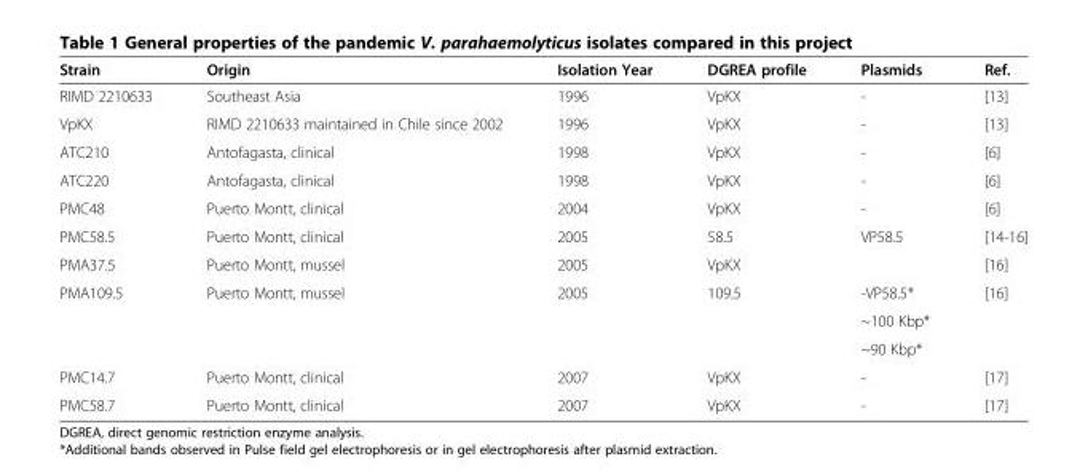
<table><thead><tr><td>Strain</td><td>Origin</td><td>Isolation Year</td><td>DGREA profile</td><td>Plasmids</td><td>Ref.</td></tr></thead><tbody><tr><td>RIMD 2210633</td><td>Southeast Asia</td><td>1996</td><td>VpKX</td><td>-</td><td>[13]</td></tr><tr><td>VpKX</td><td>RIMD 2210633 maintained in Chile since 2002</td><td>1996</td><td>VpKX</td><td>-</td><td>[13]</td></tr><tr><td>ATC210</td><td>Antofagasta, clinical</td><td>1998</td><td>VpKX</td><td>-</td><td>[6]</td></tr><tr><td>ATC220</td><td>Antofagasta, clinical</td><td>1998</td><td>VpKX</td><td>-</td><td>[6]</td></tr><tr><td>PMC48</td><td>Puerto Montt, clinical</td><td>2004</td><td>VpKX</td><td>-</td><td>[6]</td></tr><tr><td>PMC58.5</td><td>Puerto Montt, clinical</td><td>2005</td><td>58.5</td><td>VP58.5</td><td>[14-16]</td></tr><tr><td>PMA37.5</td><td>Puerto Montt, mussel</td><td>2005</td><td>VpKX</td><td></td><td>[16]</td></tr><tr><td rowspan="3">PMA109.5</td><td rowspan="3">Puerto Montt, mussel</td><td rowspan="3">2005</td><td rowspan="3">109.5</td><td>-VP58.5*</td><td rowspan="3">[16]</td></tr><tr><td>~100 Kbp*</td></tr><tr><td>~90 Kbp*</td></tr><tr><td>PMC14.7</td><td>Puerto Montt, clinical</td><td>2007</td><td>VpKX</td><td>-</td><td>[17]</td></tr><tr><td>PMC58.7</td><td>Puerto Montt, clinical</td><td>2007</td><td>VpKX</td><td>-</td><td>[17]</td></tr></tbody></table>